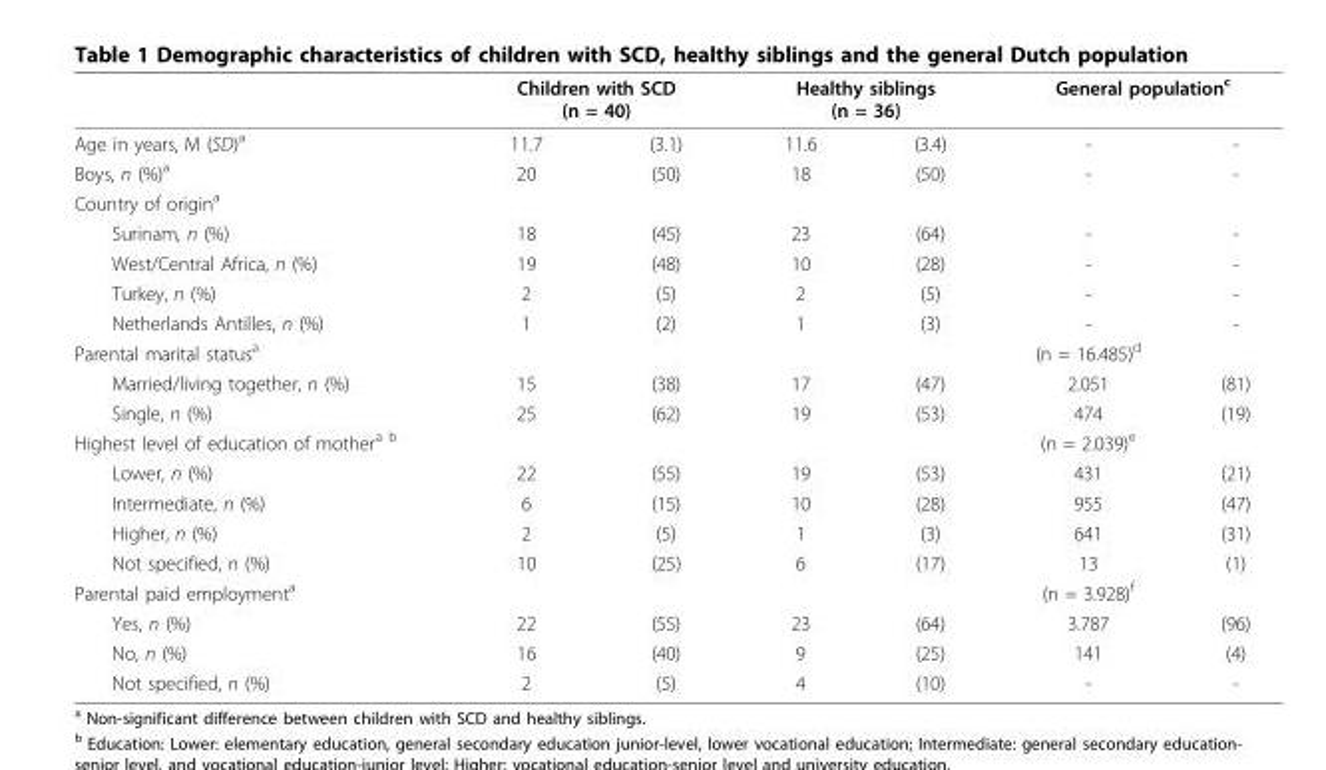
<table><thead><tr><td rowspan="2">Age in years, M (SD)<sup>a</sup></td><td colspan="2">Children with SCD (n = 40)</td><td colspan="2">Healthy siblings (n = 36)</td><td colspan="2">General population<sup>c</sup></td></tr><tr><td>11.7</td><td>(3.1)</td><td>11.6</td><td>(3.4)</td><td>-</td><td>-</td></tr></thead><tbody><tr><td>Boys, n (%)<sup>a</sup></td><td>20</td><td>(50)</td><td>18</td><td>(50)</td><td>-</td><td>-</td></tr><tr><td colspan="7">Country of origin<sup>a</sup></td></tr><tr><td>Surinam, n (%)</td><td>18</td><td>(45)</td><td>23</td><td>(64)</td><td>-</td><td>-</td></tr><tr><td>West/Central Africa, n (%)</td><td>19</td><td>(48)</td><td>10</td><td>(28)</td><td>-</td><td>-</td></tr><tr><td>Turkey, n (%)</td><td>2</td><td>(5)</td><td>2</td><td>(5)</td><td>-</td><td>-</td></tr><tr><td>Netherlands Antilles, n (%)</td><td>1</td><td>(2)</td><td>1</td><td>(3)</td><td>-</td><td>-</td></tr><tr><td>Parental marital status<sup>a</sup></td><td></td><td></td><td></td><td></td><td>(n = 16.485)<sup>d</sup></td><td></td></tr><tr><td>Married/living together, n (%)</td><td>15</td><td>(38)</td><td>17</td><td>(47)</td><td>2.051</td><td>(81)</td></tr><tr><td>Single, n (%)</td><td>25</td><td>(62)</td><td>19</td><td>(53)</td><td>474</td><td>(19)</td></tr><tr><td>Highest level of education of mother<sup>a b</sup></td><td></td><td></td><td></td><td></td><td>(n = 2.039)<sup>e</sup></td><td></td></tr><tr><td>Lower, n (%)</td><td>22</td><td>(55)</td><td>19</td><td>(53)</td><td>431</td><td>(21)</td></tr><tr><td>Intermediate, n (%)</td><td>6</td><td>(15)</td><td>10</td><td>(28)</td><td>955</td><td>(47)</td></tr><tr><td>Higher, n (%)</td><td>2</td><td>(5)</td><td>1</td><td>(3)</td><td>641</td><td>(31)</td></tr><tr><td>Not specified, n (%)</td><td>10</td><td>(25)</td><td>6</td><td>(17)</td><td>13</td><td>(1)</td></tr><tr><td>Parental paid employment<sup>a</sup></td><td></td><td></td><td></td><td></td><td>(n = 3.928)<sup>f</sup></td><td></td></tr><tr><td>Yes, n (%)</td><td>22</td><td>(55)</td><td>23</td><td>(64)</td><td>3.787</td><td>(96)</td></tr><tr><td>No, n (%)</td><td>16</td><td>(40)</td><td>9</td><td>(25)</td><td>141</td><td>(4)</td></tr><tr><td>Not specified, n (%)</td><td>2</td><td>(5)</td><td>4</td><td>(10)</td><td>-</td><td>-</td></tr></tbody></table>